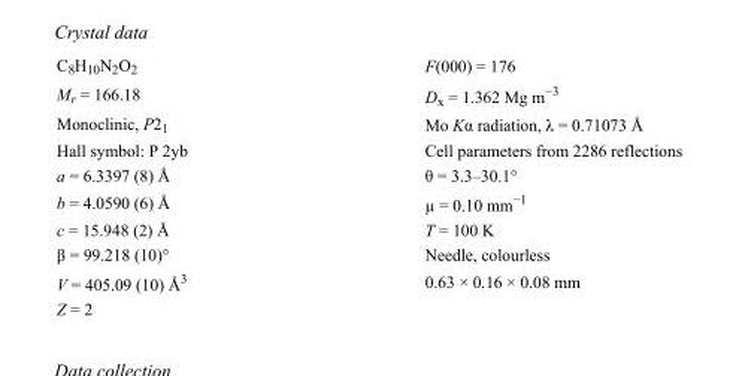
<table><tbody><tr><td>C<sub>8</sub>H<sub>10</sub>N<sub>2</sub>O<sub>2</sub></td><td>F(000) = 176</td></tr><tr><td>M<sub>r</sub> = 166.18</td><td>D<sub>x</sub> = 1.362 Mg m<sup>−3</sup></td></tr><tr><td>Monoclinic, P2<sub>1</sub></td><td>Mo Kα radiation, λ = 0.71073 Å</td></tr><tr><td>Hall symbol: P 2yb</td><td>Cell parameters from 2286 reflections</td></tr><tr><td>a = 6.3397 (8) Å</td><td>θ = 3.3–30.1°</td></tr><tr><td>b = 4.0590 (6) Å</td><td>µ = 0.10 mm<sup>−1</sup></td></tr><tr><td>c = 15.948 (2) Å</td><td>T = 100 K</td></tr><tr><td>β = 99.218 (10)°</td><td>Needle, colourless</td></tr><tr><td>V = 405.09 (10) Å<sup>3</sup></td><td>0.63 × 0.16 × 0.08 mm</td></tr><tr><td>Z = 2</td><td></td></tr></tbody></table>